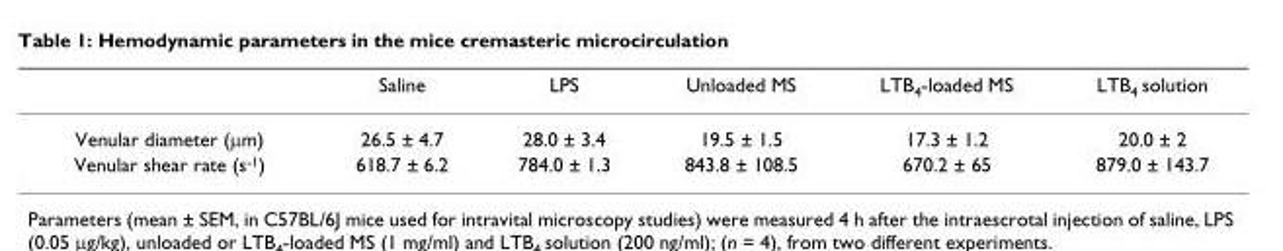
<table><thead><tr><td></td><td>Saline</td><td>LPS</td><td>Unloaded MS</td><td>LTB<sub>4</sub>-loaded MS</td><td>LTB<sub>4</sub> solution</td></tr></thead><tbody><tr><td>Venular diameter (μm)</td><td>26.5 ± 4.7</td><td>28.0 ± 3.4</td><td>19.5 ± 1.5</td><td>17.3 ± 1.2</td><td>20.0 ± 2</td></tr><tr><td>Venular shear rate (s<sup>-1</sup>)</td><td>618.7 ± 6.2</td><td>784.0 ± 1.3</td><td>843.8 ± 108.5</td><td>670.2 ± 65</td><td>879.0 ± 143.7</td></tr></tbody></table>